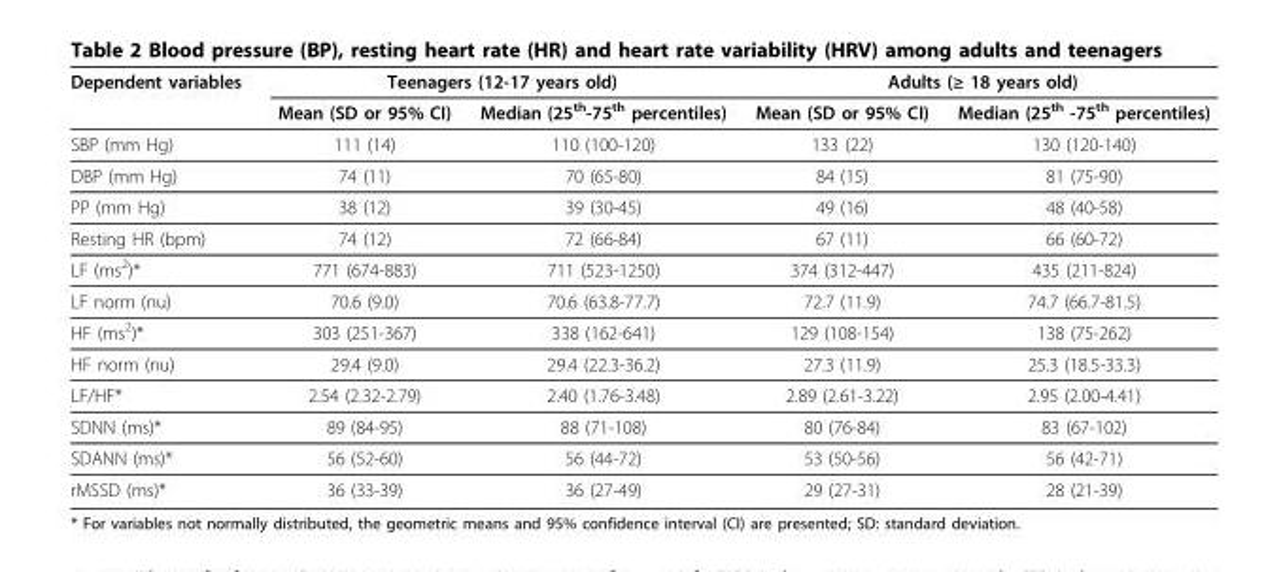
<table><thead><tr><td rowspan="2">Dependent variables</td><td colspan="2">Teenagers (12-17 years old)</td><td colspan="2">Adults (≥ 18 years old)</td></tr><tr><td>Mean (SD or 95% CI)</td><td>Median (25<sup>th</sup>-75<sup>th</sup> percentiles)</td><td>Mean (SD or 95% CI)</td><td>Median (25<sup>th</sup> -75<sup>th</sup> percentiles)</td></tr></thead><tbody><tr><td>SBP (mm Hg)</td><td>111 (14)</td><td>110 (100-120)</td><td>133 (22)</td><td>130 (120-140)</td></tr><tr><td>DBP (mm Hg)</td><td>74 (11)</td><td>70 (65-80)</td><td>84 (15)</td><td>81 (75-90)</td></tr><tr><td>PP (mm Hg)</td><td>38 (12)</td><td>39 (30-45)</td><td>49 (16)</td><td>48 (40-58)</td></tr><tr><td>Resting HR (bpm)</td><td>74 (12)</td><td>72 (66-84)</td><td>67 (11)</td><td>66 (60-72)</td></tr><tr><td>LF (ms<sup>2</sup>)*</td><td>771 (674-883)</td><td>711 (523-1250)</td><td>374 (312-447)</td><td>435 (211-824)</td></tr><tr><td>LF norm (nu)</td><td>70.6 (9.0)</td><td>70.6 (63.8-77.7)</td><td>72.7 (11.9)</td><td>74.7 (66.7-81.5)</td></tr><tr><td>HF (ms<sup>2</sup>)*</td><td>303 (251-367)</td><td>338 (162-641)</td><td>129 (108-154)</td><td>138 (75-262)</td></tr><tr><td>HF norm (nu)</td><td>29.4 (9.0)</td><td>29.4 (22.3-36.2)</td><td>27.3 (11.9)</td><td>25.3 (18.5-33.3)</td></tr><tr><td>LF/HF*</td><td>2.54 (2.32-2.79)</td><td>2.40 (1.76-3.48)</td><td>2.89 (2.61-3.22)</td><td>2.95 (2.00-4.41)</td></tr><tr><td>SDNN (ms)*</td><td>89 (84-95)</td><td>88 (71-108)</td><td>80 (76-84)</td><td>83 (67-102)</td></tr><tr><td>SDANN (ms)*</td><td>56 (52-60)</td><td>56 (44-72)</td><td>53 (50-56)</td><td>56 (42-71)</td></tr><tr><td>rMSSD (ms)*</td><td>36 (33-39)</td><td>36 (27-49)</td><td>29 (27-31)</td><td>28 (21-39)</td></tr></tbody></table>